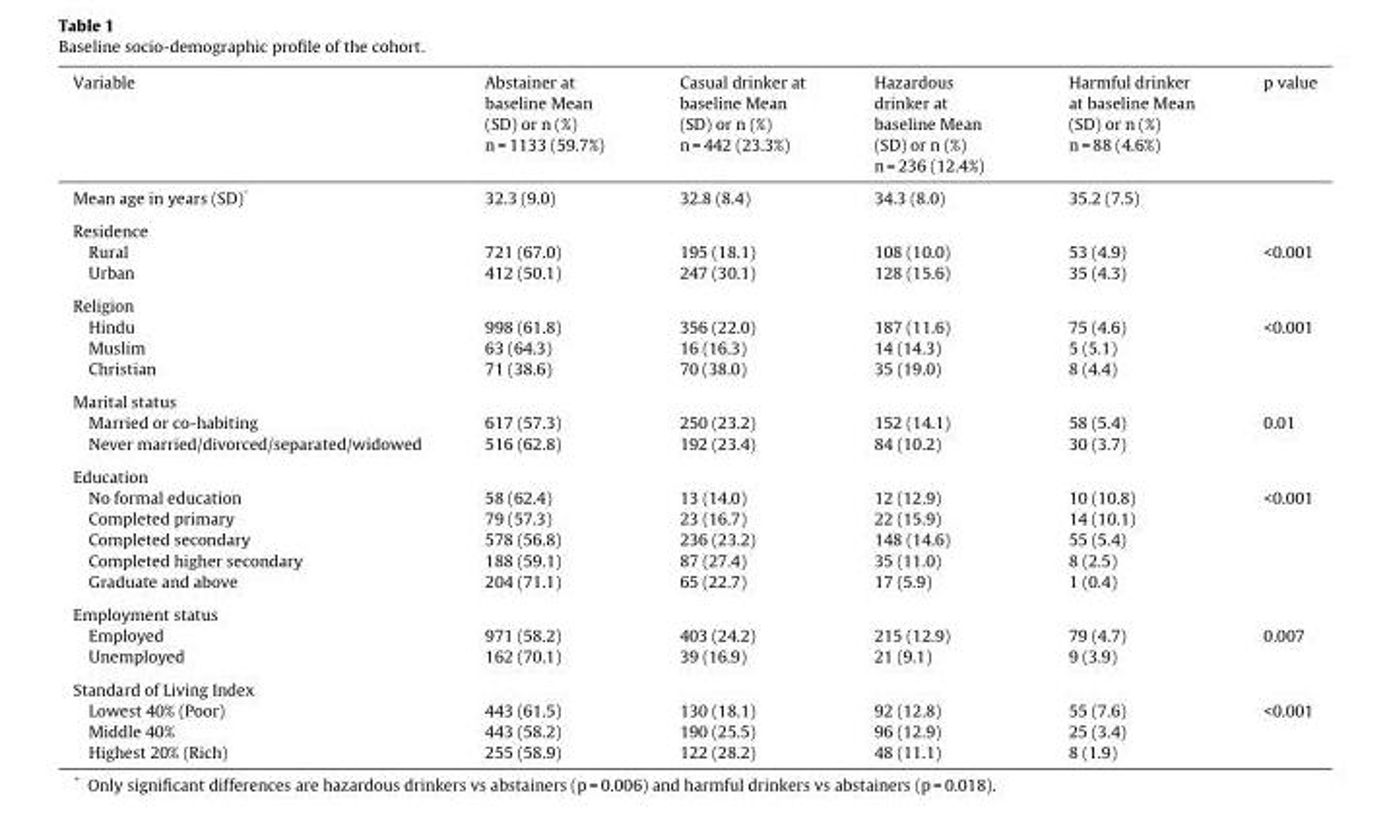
<table><thead><tr><td>Variable</td><td>Abstainer at baseline Mean (SD) or n (%) n = 1133 (59.7%)</td><td>Casual drinker at baseline Mean (SD) or n (%) n = 442 (23.3%)</td><td>Hazardous drinker at baseline Mean (SD) or n (%) n = 236 (12.4%)</td><td>Harmful drinker at baseline Mean (SD) or n (%) n = 88 (4.6%)</td><td>p value</td></tr></thead><tbody><tr><td>Mean age in years (SD)*</td><td>32.3 (9.0)</td><td>32.8 (8.4)</td><td>34.3 (8.0)</td><td>35.2 (7.5)</td><td></td></tr><tr><td colspan="6">Residence</td></tr><tr><td>Rural</td><td>721 (67.0)</td><td>195 (18.1)</td><td>108 (10.0)</td><td>53 (4.9)</td><td>&lt;0.001</td></tr><tr><td>Urban</td><td>412 (50.1)</td><td>247 (30.1)</td><td>128 (15.6)</td><td>35 (4.3)</td><td></td></tr><tr><td colspan="6">Religion</td></tr><tr><td>Hindu</td><td>998 (61.8)</td><td>356 (22.0)</td><td>187 (11.6)</td><td>75 (4.6)</td><td>&lt;0.001</td></tr><tr><td>Muslim</td><td>63 (64.3)</td><td>16 (16.3)</td><td>14 (14.3)</td><td>5 (5.1)</td><td></td></tr><tr><td>Christian</td><td>71 (38.6)</td><td>70 (38.0)</td><td>35 (19.0)</td><td>8 (4.4)</td><td></td></tr><tr><td colspan="6">Marital status</td></tr><tr><td>Married or co-habiting</td><td>617 (57.3)</td><td>250 (23.2)</td><td>152 (14.1)</td><td>58 (5.4)</td><td>0.01</td></tr><tr><td>Never married/divorced/separated/widowed</td><td>516 (62.8)</td><td>192 (23.4)</td><td>84 (10.2)</td><td>30 (3.7)</td><td></td></tr><tr><td colspan="6">Education</td></tr><tr><td>No formal education</td><td>58 (62.4)</td><td>13 (14.0)</td><td>12 (12.9)</td><td>10 (10.8)</td><td>&lt;0.001</td></tr><tr><td>Completed primary</td><td>79 (57.3)</td><td>23 (16.7)</td><td>22 (15.9)</td><td>14 (10.1)</td><td></td></tr><tr><td>Completed secondary</td><td>578 (56.8)</td><td>236 (23.2)</td><td>148 (14.6)</td><td>55 (5.4)</td><td></td></tr><tr><td>Completed higher secondary</td><td>188 (59.1)</td><td>87 (27.4)</td><td>35 (11.0)</td><td>8 (2.5)</td><td></td></tr><tr><td>Graduate and above</td><td>204 (71.1)</td><td>65 (22.7)</td><td>17 (5.9)</td><td>1 (0.4)</td><td></td></tr><tr><td colspan="6">Employment status</td></tr><tr><td>Employed</td><td>971 (58.2)</td><td>403 (24.2)</td><td>215 (12.9)</td><td>79 (4.7)</td><td>0.007</td></tr><tr><td>Unemployed</td><td>162 (70.1)</td><td>39 (16.9)</td><td>21 (9.1)</td><td>9 (3.9)</td><td></td></tr><tr><td colspan="6">Standard of Living Index</td></tr><tr><td>Lowest 40% (Poor)</td><td>443 (61.5)</td><td>130 (18.1)</td><td>92 (12.8)</td><td>55 (7.6)</td><td>&lt;0.001</td></tr><tr><td>Middle 40%</td><td>443 (58.2)</td><td>190 (25.5)</td><td>96 (12.9)</td><td>25 (3.4)</td><td></td></tr><tr><td>Highest 20% (Rich)</td><td>255 (58.9)</td><td>122 (28.2)</td><td>48 (11.1)</td><td>8 (1.9)</td><td></td></tr></tbody></table>